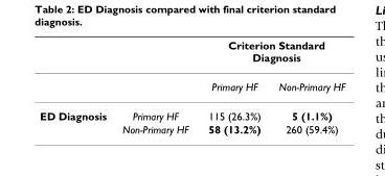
<table><thead><tr><td rowspan="2"></td><td rowspan="2"></td><td colspan="2">Criterion Standard Diagnosis</td></tr><tr><td>Primary HF</td><td>Non-Primary HF</td></tr></thead><tbody><tr><td rowspan="2">ED Diagnosis</td><td>Primary HF</td><td>115 (26.3%)</td><td>5 (1.1%)</td></tr><tr><td>Non-Primary HF</td><td>58 (13.2%)</td><td>260 (59.4%)</td></tr></tbody></table>